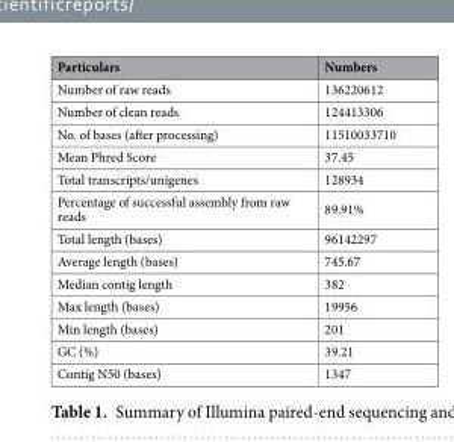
<table><thead><tr><td>Particulars</td><td>Numbers</td></tr></thead><tbody><tr><td>Number of raw reads</td><td>136220612</td></tr><tr><td>Number of clean reads</td><td>124413306</td></tr><tr><td>No. of bases (after processing)</td><td>11510033710</td></tr><tr><td>Mean Phred Score</td><td>37.45</td></tr><tr><td>Total transcripts/unigenes</td><td>128934</td></tr><tr><td>Percentage of successful assembly from raw reads</td><td>89.91%</td></tr><tr><td>Total length (bases)</td><td>96142297</td></tr><tr><td>Average length (bases)</td><td>745.67</td></tr><tr><td>Median contig length</td><td>382</td></tr><tr><td>Max length (bases)</td><td>19956</td></tr><tr><td>Min length (bases)</td><td>201</td></tr><tr><td>GC (%)</td><td>39.21</td></tr><tr><td>Contig N50 (bases)</td><td>1347</td></tr></tbody></table>